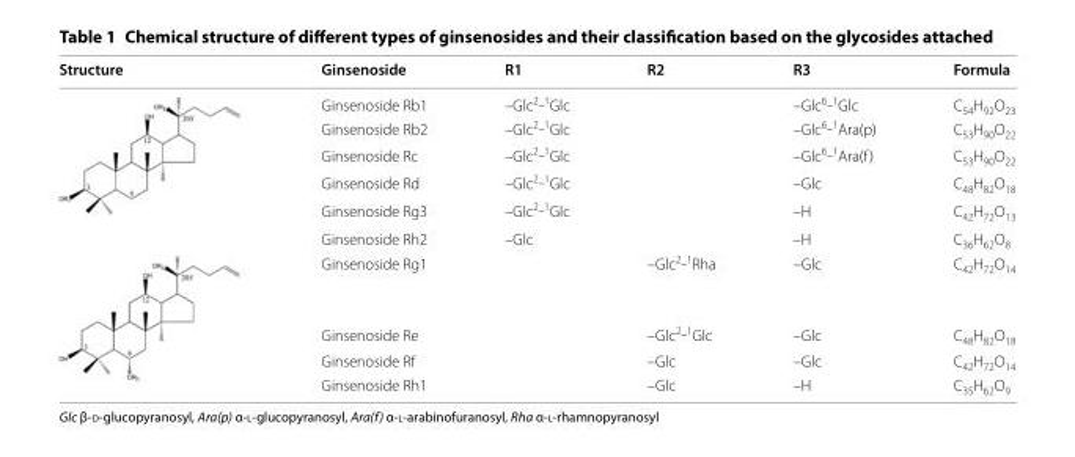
<table><thead><tr><td>Structure</td><td>Ginsenoside</td><td>R1</td><td>R2</td><td>R3</td><td>Formula</td></tr></thead><tbody><tr><td rowspan="6"></td><td>Ginsenoside Rb1</td><td>–Glc<sup>2_1</sup>Glc</td><td></td><td>–Glc<sup>6_1</sup>Glc</td><td>C<sub>54</sub>H<sub>92</sub>O<sub>23</sub></td></tr><tr><td>Ginsenoside Rb2</td><td>–Glc<sup>2_1</sup>Glc</td><td></td><td>–Glc<sup>6_1</sup>Ara(p)</td><td>C<sub>53</sub>H<sub>90</sub>O<sub>22</sub></td></tr><tr><td>Ginsenoside Rc</td><td>–Glc<sup>2_1</sup>Glc</td><td></td><td>–Glc<sup>6_1</sup>Ara(f)</td><td>C<sub>53</sub>H<sub>90</sub>O<sub>22</sub></td></tr><tr><td>Ginsenoside Rd</td><td>–Glc<sup>2_1</sup>Glc</td><td></td><td>–Glc</td><td>C<sub>48</sub>H<sub>82</sub>O<sub>18</sub></td></tr><tr><td>Ginsenoside Rg3</td><td>–Glc<sup>2_1</sup>Glc</td><td></td><td>–H</td><td>C<sub>42</sub>H<sub>72</sub>O<sub>13</sub></td></tr><tr><td>Ginsenoside Rh2</td><td>–Glc</td><td></td><td>–H</td><td>C<sub>36</sub>H<sub>62</sub>O<sub>8</sub></td></tr><tr><td rowspan="4"></td><td>Ginsenoside Rg1</td><td></td><td>–Glc<sup>2_1</sup>Rha</td><td>–Glc</td><td>C<sub>42</sub>H<sub>72</sub>O<sub>14</sub></td></tr><tr><td>Ginsenoside Re</td><td></td><td>–Glc<sup>2_1</sup>Glc</td><td>–Glc</td><td>C<sub>48</sub>H<sub>82</sub>O<sub>18</sub></td></tr><tr><td>Ginsenoside Rf</td><td></td><td>–Glc</td><td>–Glc</td><td>C<sub>42</sub>H<sub>72</sub>O<sub>14</sub></td></tr><tr><td>Ginsenoside Rh1</td><td></td><td>–Glc</td><td>–H</td><td>C<sub>35</sub>H<sub>62</sub>O<sub>9</sub></td></tr></tbody></table>